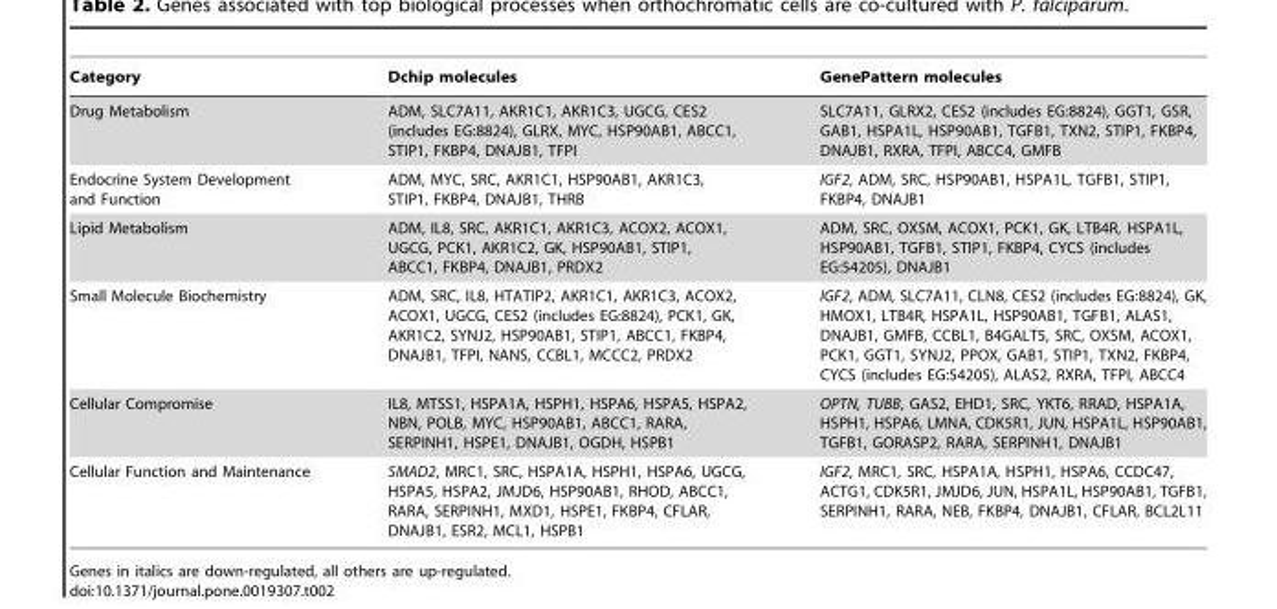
<table><thead><tr><td>Category</td><td>Dchip molecules</td><td>GenePattern molecules</td></tr></thead><tbody><tr><td>Drug Metabolism</td><td>ADM, SLC7A11, AKR1C1, AKR1C3, UGCG, CES2 (includes EG:8824), GLRX, MYC, HSP90AB1, ABCC1, STIP1, FKBP4, DNAJB1, TFPI</td><td>SLC7A11, GLRX2, CES2 (includes EG:8824), GGT1, GSR, GAB1, HSPA1L, HSP90AB1, TGFB1, TXN2, STIP1, FKBP4, DNAJB1, RXRA, TFPI, ABCC4, GMFB</td></tr><tr><td>Endocrine System Development and Function</td><td>ADM, MYC, SRC, AKR1C1, HSP90AB1, AKR1C3, STIP1, FKBP4, DNAJB1, THRB</td><td>IGF2, ADM, SRC, HSP90AB1, HSPA1L, TGFB1, STIP1, FKBP4, DNAJB1</td></tr><tr><td>Lipid Metabolism</td><td>ADM, IL8, SRC, AKR1C1, AKR1C3, ACOX2, ACOX1, UGCG, PCK1, AKR1C2, GK, HSP90AB1, STIP1, ABCC1, FKBP4, DNAJB1, PRDX2</td><td>ADM, SRC, OXSM, ACOX1, PCK1, GK, LTB4R, HSPA1L, HSP90AB1, TGFB1, STIP1, FKBP4, CYCS (includes EG:54205), DNAJB1</td></tr><tr><td>Small Molecule Biochemistry</td><td>ADM, SRC, IL8, HTATIP2, AKR1C1, AKR1C3, ACOX2, ACOX1, UGCG, CES2 (includes EG:8824), PCK1, GK, AKR1C2, SYNJ2, HSP90AB1, STIP1, ABCC1, FKBP4, DNAJB1, TFPI, NANS, CCBL1, MCCC2, PRDX2</td><td>IGF2, ADM, SLC7A11, CLN8, CES2 (includes EG:8824), GK, HMOX1, LTB4R, HSPA1L, HSP90AB1, TGFB1, ALAS1, DNAJB1, GMFB, CCBL1, B4GALT5, SRC, OXSM, ACOX1, PCK1, GGT1, SYNJ2, PPOX, GAB1, STIP1, TXN2, FKBP4, CYCS (includes EG:54205), ALAS2, RXRA, TFPI, ABCC4</td></tr><tr><td>Cellular Compromise</td><td>IL8, MTSS1, HSPA1A, HSPH1, HSPA6, HSPA5, HSPA2, NBN, POLB, MYC, HSP90AB1, ABCC1, RARA, SERPINH1, HSPE1, DNAJB1, OGDH, HSPB1</td><td>OPTN, TUBB, GAS2, EHD1, SRC, YKT6, RRAD, HSPA1A, HSPH1, HSPA6, LMNA, CDK5R1, JUN, HSPA1L, HSP90AB1, TGFB1, GORASP2, RARA, SERPINH1, DNAJB1</td></tr><tr><td>Cellular Function and Maintenance</td><td>SMAD2, MRC1, SRC, HSPA1A, HSPH1, HSPA6, UGCG, HSPA5, HSPA2, JMJD6, HSP90AB1, RHOD, ABCC1, RARA, SERPINH1, MXD1, HSPE1, FKBP4, CFLAR, DNAJB1, ESR2, MCL1, HSPB1</td><td>IGF2, MRC1, SRC, HSPA1A, HSPH1, HSPA6, CCDC47, ACTG1, CDK5R1, JMJD6, JUN, HSPA1L, HSP90AB1, TGFB1, SERPINH1, RARA, NEB, FKBP4, DNAJB1, CFLAR, BCL2L11</td></tr></tbody></table>